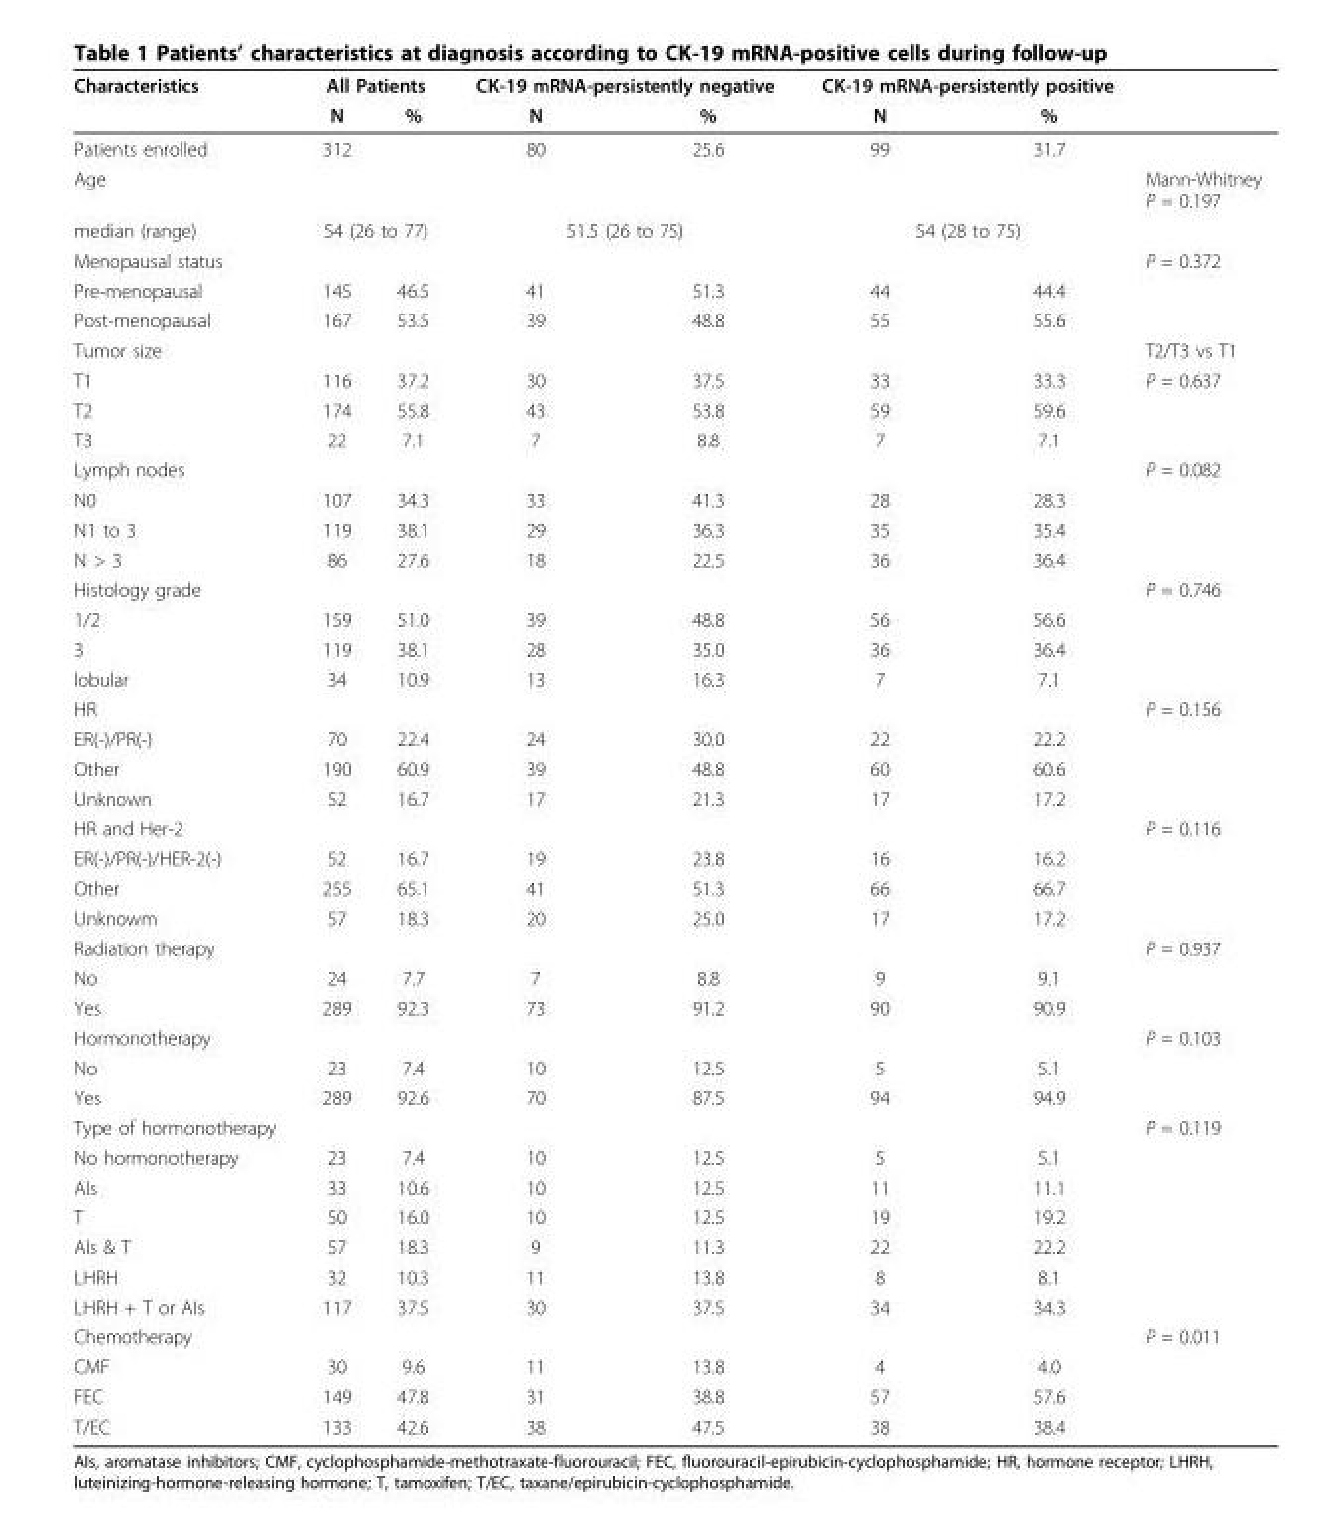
<table><thead><tr><td rowspan="2">Characteristics</td><td colspan="2">All Patients</td><td colspan="2">CK-19 mRNA-persistently negative</td><td colspan="2">CK-19 mRNA-persistently positive</td><td rowspan="2"></td></tr><tr><td>N</td><td>%</td><td>N</td><td>%</td><td>N</td><td>%</td></tr></thead><tbody><tr><td>Patients enrolled</td><td>312</td><td></td><td>80</td><td>25.6</td><td>99</td><td>31.7</td><td></td></tr><tr><td>Age</td><td></td><td></td><td></td><td></td><td></td><td></td><td>Mann-Whitney P = 0.197</td></tr><tr><td>median (range)</td><td colspan="2">54 (26 to 77)</td><td colspan="2">51.5 (26 to 75)</td><td colspan="2">54 (28 to 75)</td><td></td></tr><tr><td>Menopausal status</td><td></td><td></td><td></td><td></td><td></td><td></td><td>P = 0.372</td></tr><tr><td>Pre-menopausal</td><td>145</td><td>46.5</td><td>41</td><td>51.3</td><td>44</td><td>44.4</td><td></td></tr><tr><td>Post-menopausal</td><td>167</td><td>53.5</td><td>39</td><td>48.8</td><td>55</td><td>55.6</td><td></td></tr><tr><td>Tumor size</td><td></td><td></td><td></td><td></td><td></td><td></td><td>T2/T3 vs T1</td></tr><tr><td>T1</td><td>116</td><td>37.2</td><td>30</td><td>37.5</td><td>33</td><td>33.3</td><td>P = 0.637</td></tr><tr><td>T2</td><td>174</td><td>55.8</td><td>43</td><td>53.8</td><td>59</td><td>59.6</td><td></td></tr><tr><td>T3</td><td>22</td><td>7.1</td><td>7</td><td>8.8</td><td>7</td><td>7.1</td><td></td></tr><tr><td>Lymph nodes</td><td></td><td></td><td></td><td></td><td></td><td></td><td>P = 0.082</td></tr><tr><td>N0</td><td>107</td><td>34.3</td><td>33</td><td>41.3</td><td>28</td><td>28.3</td><td></td></tr><tr><td>N1 to 3</td><td>119</td><td>38.1</td><td>29</td><td>36.3</td><td>35</td><td>35.4</td><td></td></tr><tr><td>N &gt; 3</td><td>86</td><td>27.6</td><td>18</td><td>22.5</td><td>36</td><td>36.4</td><td></td></tr><tr><td>Histology grade</td><td></td><td></td><td></td><td></td><td></td><td></td><td>P = 0.746</td></tr><tr><td>1/2</td><td>159</td><td>51.0</td><td>39</td><td>48.8</td><td>56</td><td>56.6</td><td></td></tr><tr><td>3</td><td>119</td><td>38.1</td><td>28</td><td>35.0</td><td>36</td><td>36.4</td><td></td></tr><tr><td>lobular</td><td>34</td><td>10.9</td><td>13</td><td>16.3</td><td>7</td><td>7.1</td><td></td></tr><tr><td>HR</td><td></td><td></td><td></td><td></td><td></td><td></td><td>P = 0.156</td></tr><tr><td>ER(-)/PR(-)</td><td>70</td><td>22.4</td><td>24</td><td>30.0</td><td>22</td><td>22.2</td><td></td></tr><tr><td>Other</td><td>190</td><td>60.9</td><td>39</td><td>48.8</td><td>60</td><td>60.6</td><td></td></tr><tr><td>Unknown</td><td>52</td><td>16.7</td><td>17</td><td>21.3</td><td>17</td><td>17.2</td><td></td></tr><tr><td>HR and Her-2</td><td></td><td></td><td></td><td></td><td></td><td></td><td>P = 0.116</td></tr><tr><td>ER(-)/PR(-)/HER-2(-)</td><td>52</td><td>16.7</td><td>19</td><td>23.8</td><td>16</td><td>16.2</td><td></td></tr><tr><td>Other</td><td>255</td><td>65.1</td><td>41</td><td>51.3</td><td>66</td><td>66.7</td><td></td></tr><tr><td>Unknowm</td><td>57</td><td>18.3</td><td>20</td><td>25.0</td><td>17</td><td>17.2</td><td></td></tr><tr><td>Radiation therapy</td><td></td><td></td><td></td><td></td><td></td><td></td><td>P = 0.937</td></tr><tr><td>No</td><td>24</td><td>7.7</td><td>7</td><td>8.8</td><td>9</td><td>9.1</td><td></td></tr><tr><td>Yes</td><td>289</td><td>92.3</td><td>73</td><td>91.2</td><td>90</td><td>90.9</td><td></td></tr><tr><td>Hormonotherapy</td><td></td><td></td><td></td><td></td><td></td><td></td><td>P = 0.103</td></tr><tr><td>No</td><td>23</td><td>7.4</td><td>10</td><td>12.5</td><td>5</td><td>5.1</td><td></td></tr><tr><td>Yes</td><td>289</td><td>92.6</td><td>70</td><td>87.5</td><td>94</td><td>94.9</td><td></td></tr><tr><td>Type of hormonotherapy</td><td></td><td></td><td></td><td></td><td></td><td></td><td>P = 0.119</td></tr><tr><td>No hormonotherapy</td><td>23</td><td>7.4</td><td>10</td><td>12.5</td><td>5</td><td>5.1</td><td></td></tr><tr><td>AIs</td><td>33</td><td>10.6</td><td>10</td><td>12.5</td><td>11</td><td>11.1</td><td></td></tr><tr><td>T</td><td>50</td><td>16.0</td><td>10</td><td>12.5</td><td>19</td><td>19.2</td><td></td></tr><tr><td>AIs &amp; T</td><td>57</td><td>18.3</td><td>9</td><td>11.3</td><td>22</td><td>22.2</td><td></td></tr><tr><td>LHRH</td><td>32</td><td>10.3</td><td>11</td><td>13.8</td><td>8</td><td>8.1</td><td></td></tr><tr><td>LHRH + T or AIs</td><td>117</td><td>37.5</td><td>30</td><td>37.5</td><td>34</td><td>34.3</td><td></td></tr><tr><td>Chemotherapy</td><td></td><td></td><td></td><td></td><td></td><td></td><td>P = 0.011</td></tr><tr><td>CMF</td><td>30</td><td>9.6</td><td>11</td><td>13.8</td><td>4</td><td>4.0</td><td></td></tr><tr><td>FEC</td><td>149</td><td>47.8</td><td>31</td><td>38.8</td><td>57</td><td>57.6</td><td></td></tr><tr><td>T/EC</td><td>133</td><td>42.6</td><td>38</td><td>47.5</td><td>38</td><td>38.4</td><td></td></tr></tbody></table>